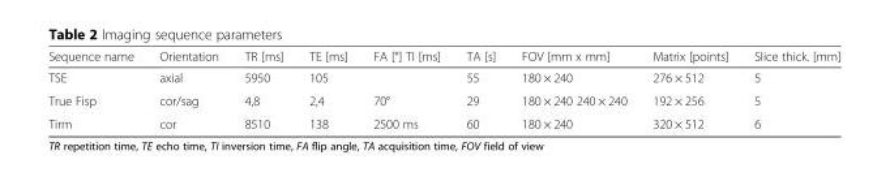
<table><thead><tr><td>Sequence name</td><td>Orientation</td><td>TR [ms]</td><td>TE [ms]</td><td>FA [°] TI [ms]</td><td>TA [s]</td><td>FOV [mm x mm]</td><td>Matrix [points]</td><td>Slice thick. [mm]</td></tr></thead><tbody><tr><td>TSE</td><td>axial</td><td>5950</td><td>105</td><td></td><td>55</td><td>180 × 240</td><td>276 × 512</td><td>5</td></tr><tr><td>True Fisp</td><td>cor/sag</td><td>4,8</td><td>2,4</td><td>70°</td><td>29</td><td>180 × 240 240 × 240</td><td>192 × 256</td><td>5</td></tr><tr><td>Tirm</td><td>cor</td><td>8510</td><td>138</td><td>2500 ms</td><td>60</td><td>180 × 240</td><td>320 × 512</td><td>6</td></tr></tbody></table>